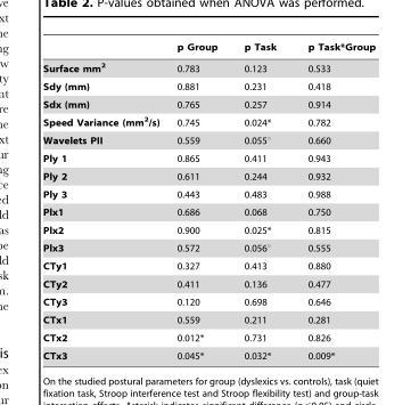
<table><thead><tr><td></td><td>p Group</td><td>p Task</td><td>p Task*Group</td></tr></thead><tbody><tr><td>Surface mm<sup>2</sup></td><td>0.783</td><td>0.123</td><td>0.533</td></tr><tr><td>Sdy (mm)</td><td>0.881</td><td>0.231</td><td>0.418</td></tr><tr><td>Sdx (mm)</td><td>0.765</td><td>0.257</td><td>0.914</td></tr><tr><td>Speed Variance (mm<sup>2</sup>/s)</td><td>0.745</td><td>0.024*</td><td>0.782</td></tr><tr><td>Wavelets PII</td><td>0.559</td><td>0.055°</td><td>0.660</td></tr><tr><td>Ply 1</td><td>0.865</td><td>0.411</td><td>0.943</td></tr><tr><td>Ply 2</td><td>0.611</td><td>0.244</td><td>0.932</td></tr><tr><td>Ply 3</td><td>0.443</td><td>0.483</td><td>0.988</td></tr><tr><td>Plx1</td><td>0.686</td><td>0.068</td><td>0.750</td></tr><tr><td>Plx2</td><td>0.900</td><td>0.025*</td><td>0.815</td></tr><tr><td>Plx3</td><td>0.572</td><td>0.056°</td><td>0.555</td></tr><tr><td>CTy1</td><td>0.327</td><td>0.413</td><td>0.880</td></tr><tr><td>CTy2</td><td>0.411</td><td>0.136</td><td>0.477</td></tr><tr><td>CTy3</td><td>0.120</td><td>0.698</td><td>0.646</td></tr><tr><td>CTx1</td><td>0.559</td><td>0.211</td><td>0.281</td></tr><tr><td>CTx2</td><td>0.012*</td><td>0.731</td><td>0.826</td></tr><tr><td>CTx3</td><td>0.045*</td><td>0.032*</td><td>0.009*</td></tr></tbody></table>